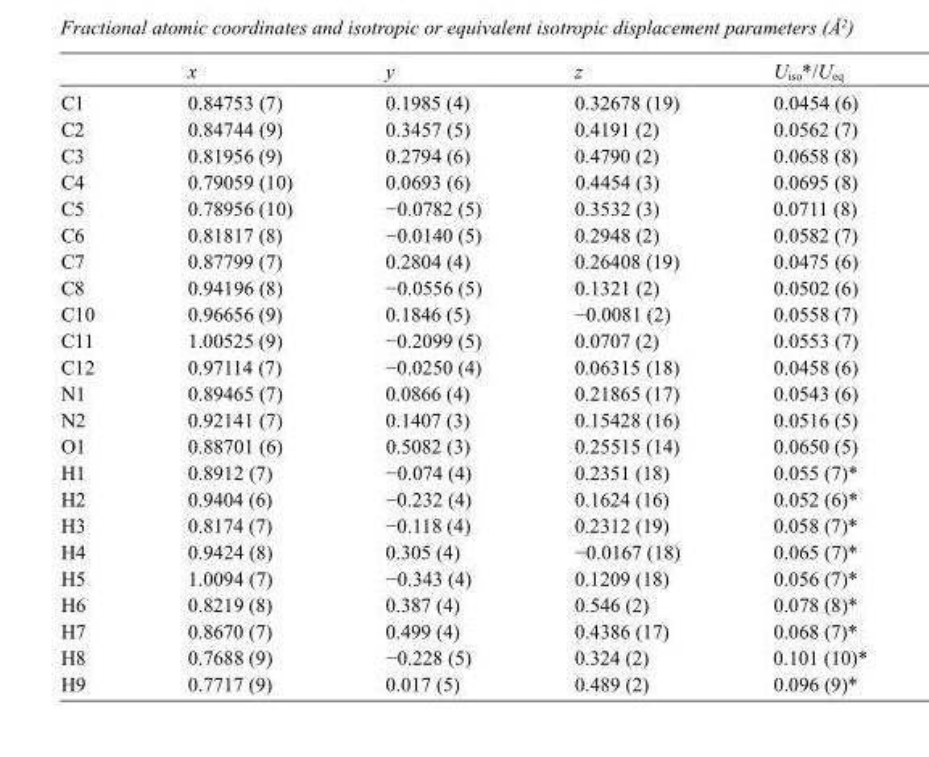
<table><thead><tr><td></td><td>x</td><td>y</td><td>z</td><td>U<sub>iso</sub>*/U<sub>eq</sub></td></tr></thead><tbody><tr><td>C1</td><td>0.84753 (7)</td><td>0.1985 (4)</td><td>0.32678 (19)</td><td>0.0454 (6)</td></tr><tr><td>C2</td><td>0.84744 (9)</td><td>0.3457 (5)</td><td>0.4191 (2)</td><td>0.0562 (7)</td></tr><tr><td>C3</td><td>0.81956 (9)</td><td>0.2794 (6)</td><td>0.4790 (2)</td><td>0.0658 (8)</td></tr><tr><td>C4</td><td>0.79059 (10)</td><td>0.0693 (6)</td><td>0.4454 (3)</td><td>0.0695 (8)</td></tr><tr><td>C5</td><td>0.78956 (10)</td><td>−0.0782 (5)</td><td>0.3532 (3)</td><td>0.0711 (8)</td></tr><tr><td>C6</td><td>0.81817 (8)</td><td>−0.0140 (5)</td><td>0.2948 (2)</td><td>0.0582 (7)</td></tr><tr><td>C7</td><td>0.87799 (7)</td><td>0.2804 (4)</td><td>0.26408 (19)</td><td>0.0475 (6)</td></tr><tr><td>C8</td><td>0.94196 (8)</td><td>−0.0556 (5)</td><td>0.1321 (2)</td><td>0.0502 (6)</td></tr><tr><td>C10</td><td>0.96656 (9)</td><td>0.1846 (5)</td><td>−0.0081 (2)</td><td>0.0558 (7)</td></tr><tr><td>C11</td><td>1.00525 (9)</td><td>−0.2099 (5)</td><td>0.0707 (2)</td><td>0.0553 (7)</td></tr><tr><td>C12</td><td>0.97114 (7)</td><td>−0.0250 (4)</td><td>0.06315 (18)</td><td>0.0458 (6)</td></tr><tr><td>N1</td><td>0.89465 (7)</td><td>0.0866 (4)</td><td>0.21865 (17)</td><td>0.0543 (6)</td></tr><tr><td>N2</td><td>0.92141 (7)</td><td>0.1407 (3)</td><td>0.15428 (16)</td><td>0.0516 (5)</td></tr><tr><td>O1</td><td>0.88701 (6)</td><td>0.5082 (3)</td><td>0.25515 (14)</td><td>0.0650 (5)</td></tr><tr><td>H1</td><td>0.8912 (7)</td><td>−0.074 (4)</td><td>0.2351 (18)</td><td>0.055 (7)*</td></tr><tr><td>H2</td><td>0.9404 (6)</td><td>−0.232 (4)</td><td>0.1624 (16)</td><td>0.052 (6)*</td></tr><tr><td>H3</td><td>0.8174 (7)</td><td>−0.118 (4)</td><td>0.2312 (19)</td><td>0.058 (7)*</td></tr><tr><td>H4</td><td>0.9424 (8)</td><td>0.305 (4)</td><td>−0.0167 (18)</td><td>0.065 (7)*</td></tr><tr><td>H5</td><td>1.0094 (7)</td><td>−0.343 (4)</td><td>0.1209 (18)</td><td>0.056 (7)*</td></tr><tr><td>H6</td><td>0.8219 (8)</td><td>0.387 (4)</td><td>0.546 (2)</td><td>0.078 (8)*</td></tr><tr><td>H7</td><td>0.8670 (7)</td><td>0.499 (4)</td><td>0.4386 (17)</td><td>0.068 (7)*</td></tr><tr><td>H8</td><td>0.7688 (9)</td><td>−0.228 (5)</td><td>0.324 (2)</td><td>0.101 (10)*</td></tr><tr><td>H9</td><td>0.7717 (9)</td><td>0.017 (5)</td><td>0.489 (2)</td><td>0.096 (9)*</td></tr></tbody></table>